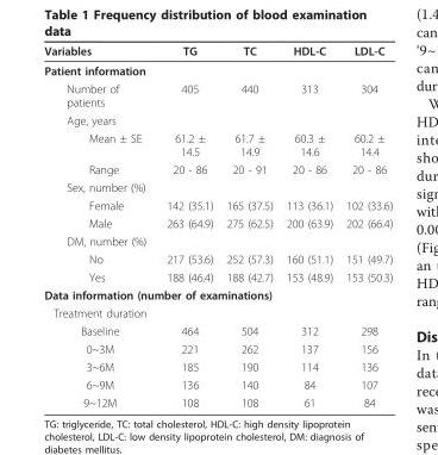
<table><thead><tr><td>Variables</td><td>TG</td><td>TC</td><td>HDL-C</td><td>LDL-C</td></tr></thead><tbody><tr><td colspan="5">Patient information</td></tr><tr><td>Number of patients</td><td>405</td><td>440</td><td>313</td><td>304</td></tr><tr><td colspan="5">Age, years</td></tr><tr><td>Mean ± SE</td><td>61.2 ± 14.5</td><td>61.7 ± 14.9</td><td>60.3 ± 14.6</td><td>60.2 ± 14.4</td></tr><tr><td>Range</td><td>20 - 86</td><td>20 - 91</td><td>20 - 86</td><td>20 - 86</td></tr><tr><td colspan="5">Sex, number (%)</td></tr><tr><td>Female</td><td>142 (35.1)</td><td>165 (37.5)</td><td>113 (36.1)</td><td>102 (33.6)</td></tr><tr><td>Male</td><td>263 (64.9)</td><td>275 (62.5)</td><td>200 (63.9)</td><td>202 (66.4)</td></tr><tr><td colspan="5">DM, number (%)</td></tr><tr><td>No</td><td>217 (53.6)</td><td>252 (57.3)</td><td>160 (51.1)</td><td>151 (49.7)</td></tr><tr><td>Yes</td><td>188 (46.4)</td><td>188 (42.7)</td><td>153 (48.9)</td><td>153 (50.3)</td></tr><tr><td colspan="5">Data information (number of examinations)</td></tr><tr><td colspan="5">Treatment duration</td></tr><tr><td>Baseline</td><td>464</td><td>504</td><td>312</td><td>298</td></tr><tr><td>0~3M</td><td>221</td><td>262</td><td>137</td><td>156</td></tr><tr><td>3~6M</td><td>185</td><td>190</td><td>114</td><td>136</td></tr><tr><td>6~9M</td><td>136</td><td>140</td><td>84</td><td>107</td></tr><tr><td>9~12M</td><td>108</td><td>108</td><td>61</td><td>84</td></tr></tbody></table>